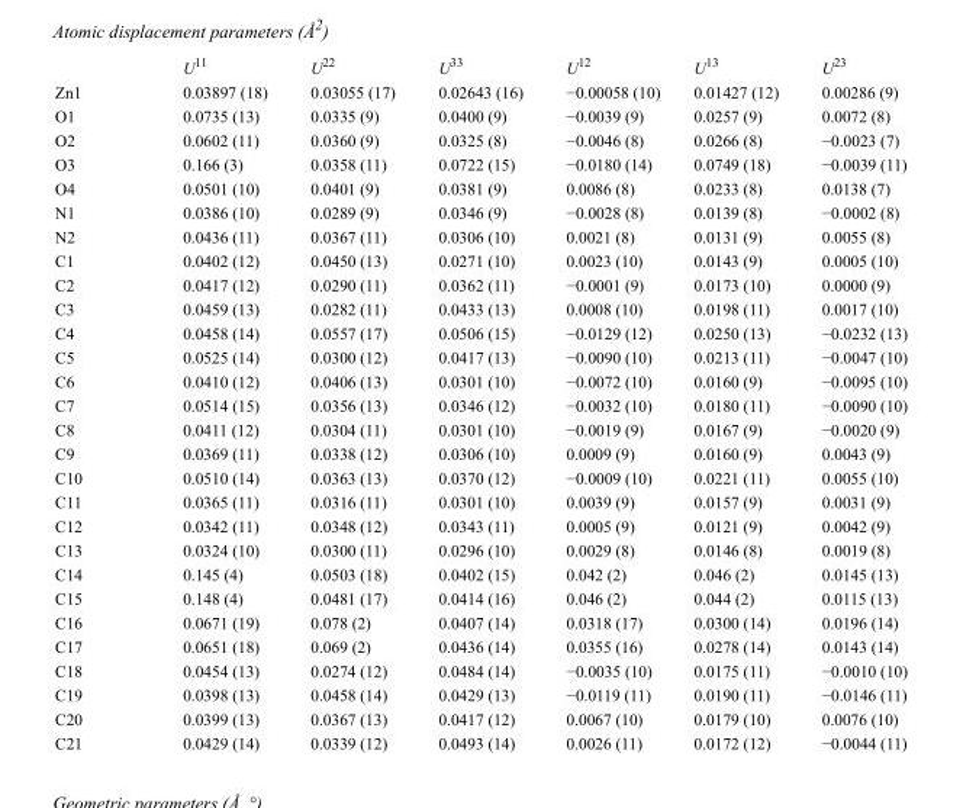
<table><thead><tr><td></td><td>U<sup>11</sup></td><td>U<sup>22</sup></td><td>U<sup>33</sup></td><td>U<sup>12</sup></td><td>U<sup>13</sup></td><td>U<sup>23</sup></td></tr></thead><tbody><tr><td>Zn1</td><td>0.03897 (18)</td><td>0.03055 (17)</td><td>0.02643 (16)</td><td>−0.00058 (10)</td><td>0.01427 (12)</td><td>0.00286 (9)</td></tr><tr><td>O1</td><td>0.0735 (13)</td><td>0.0335 (9)</td><td>0.0400 (9)</td><td>−0.0039 (9)</td><td>0.0257 (9)</td><td>0.0072 (8)</td></tr><tr><td>O2</td><td>0.0602 (11)</td><td>0.0360 (9)</td><td>0.0325 (8)</td><td>−0.0046 (8)</td><td>0.0266 (8)</td><td>−0.0023 (7)</td></tr><tr><td>O3</td><td>0.166 (3)</td><td>0.0358 (11)</td><td>0.0722 (15)</td><td>−0.0180 (14)</td><td>0.0749 (18)</td><td>−0.0039 (11)</td></tr><tr><td>O4</td><td>0.0501 (10)</td><td>0.0401 (9)</td><td>0.0381 (9)</td><td>0.0086 (8)</td><td>0.0233 (8)</td><td>0.0138 (7)</td></tr><tr><td>N1</td><td>0.0386 (10)</td><td>0.0289 (9)</td><td>0.0346 (9)</td><td>−0.0028 (8)</td><td>0.0139 (8)</td><td>−0.0002 (8)</td></tr><tr><td>N2</td><td>0.0436 (11)</td><td>0.0367 (11)</td><td>0.0306 (10)</td><td>0.0021 (8)</td><td>0.0131 (9)</td><td>0.0055 (8)</td></tr><tr><td>C1</td><td>0.0402 (12)</td><td>0.0450 (13)</td><td>0.0271 (10)</td><td>0.0023 (10)</td><td>0.0143 (9)</td><td>0.0005 (10)</td></tr><tr><td>C2</td><td>0.0417 (12)</td><td>0.0290 (11)</td><td>0.0362 (11)</td><td>−0.0001 (9)</td><td>0.0173 (10)</td><td>0.0000 (9)</td></tr><tr><td>C3</td><td>0.0459 (13)</td><td>0.0282 (11)</td><td>0.0433 (13)</td><td>0.0008 (10)</td><td>0.0198 (11)</td><td>0.0017 (10)</td></tr><tr><td>C4</td><td>0.0458 (14)</td><td>0.0557 (17)</td><td>0.0506 (15)</td><td>−0.0129 (12)</td><td>0.0250 (13)</td><td>−0.0232 (13)</td></tr><tr><td>C5</td><td>0.0525 (14)</td><td>0.0300 (12)</td><td>0.0417 (13)</td><td>−0.0090 (10)</td><td>0.0213 (11)</td><td>−0.0047 (10)</td></tr><tr><td>C6</td><td>0.0410 (12)</td><td>0.0406 (13)</td><td>0.0301 (10)</td><td>−0.0072 (10)</td><td>0.0160 (9)</td><td>−0.0095 (10)</td></tr><tr><td>C7</td><td>0.0514 (15)</td><td>0.0356 (13)</td><td>0.0346 (12)</td><td>−0.0032 (10)</td><td>0.0180 (11)</td><td>−0.0090 (10)</td></tr><tr><td>C8</td><td>0.0411 (12)</td><td>0.0304 (11)</td><td>0.0301 (10)</td><td>−0.0019 (9)</td><td>0.0167 (9)</td><td>−0.0020 (9)</td></tr><tr><td>C9</td><td>0.0369 (11)</td><td>0.0338 (12)</td><td>0.0306 (10)</td><td>0.0009 (9)</td><td>0.0160 (9)</td><td>0.0043 (9)</td></tr><tr><td>C10</td><td>0.0510 (14)</td><td>0.0363 (13)</td><td>0.0370 (12)</td><td>−0.0009 (10)</td><td>0.0221 (11)</td><td>0.0055 (10)</td></tr><tr><td>C11</td><td>0.0365 (11)</td><td>0.0316 (11)</td><td>0.0301 (10)</td><td>0.0039 (9)</td><td>0.0157 (9)</td><td>0.0031 (9)</td></tr><tr><td>C12</td><td>0.0342 (11)</td><td>0.0348 (12)</td><td>0.0343 (11)</td><td>0.0005 (9)</td><td>0.0121 (9)</td><td>0.0042 (9)</td></tr><tr><td>C13</td><td>0.0324 (10)</td><td>0.0300 (11)</td><td>0.0296 (10)</td><td>0.0029 (8)</td><td>0.0146 (8)</td><td>0.0019 (8)</td></tr><tr><td>C14</td><td>0.145 (4)</td><td>0.0503 (18)</td><td>0.0402 (15)</td><td>0.042 (2)</td><td>0.046 (2)</td><td>0.0145 (13)</td></tr><tr><td>C15</td><td>0.148 (4)</td><td>0.0481 (17)</td><td>0.0414 (16)</td><td>0.046 (2)</td><td>0.044 (2)</td><td>0.0115 (13)</td></tr><tr><td>C16</td><td>0.0671 (19)</td><td>0.078 (2)</td><td>0.0407 (14)</td><td>0.0318 (17)</td><td>0.0300 (14)</td><td>0.0196 (14)</td></tr><tr><td>C17</td><td>0.0651 (18)</td><td>0.069 (2)</td><td>0.0436 (14)</td><td>0.0355 (16)</td><td>0.0278 (14)</td><td>0.0143 (14)</td></tr><tr><td>C18</td><td>0.0454 (13)</td><td>0.0274 (12)</td><td>0.0484 (14)</td><td>−0.0035 (10)</td><td>0.0175 (11)</td><td>−0.0010 (10)</td></tr><tr><td>C19</td><td>0.0398 (13)</td><td>0.0458 (14)</td><td>0.0429 (13)</td><td>−0.0119 (11)</td><td>0.0190 (11)</td><td>−0.0146 (11)</td></tr><tr><td>C20</td><td>0.0399 (13)</td><td>0.0367 (13)</td><td>0.0417 (12)</td><td>0.0067 (10)</td><td>0.0179 (10)</td><td>0.0076 (10)</td></tr><tr><td>C21</td><td>0.0429 (14)</td><td>0.0339 (12)</td><td>0.0493 (14)</td><td>0.0026 (11)</td><td>0.0172 (12)</td><td>−0.0044 (11)</td></tr></tbody></table>